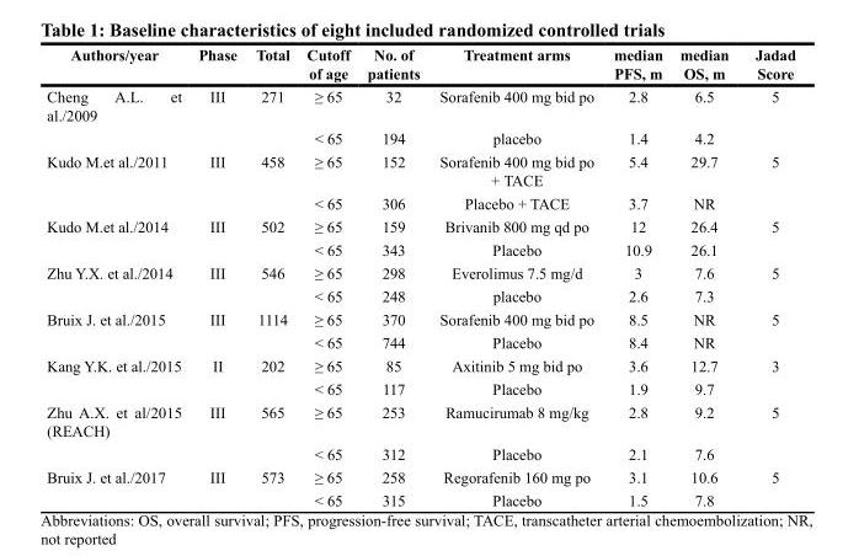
<table><thead><tr><td>Authors/year</td><td>Phase</td><td>Total</td><td>Cutoff of age</td><td>No. of patients</td><td>Treatment arms</td><td>median PFS, m</td><td>median OS, m</td><td>Jadad Score</td></tr></thead><tbody><tr><td rowspan="2">Cheng A.L. et al./2009</td><td>III</td><td>271</td><td>≥ 65</td><td>32</td><td>Sorafenib 400 mg bid po</td><td>2.8</td><td>6.5</td><td>5</td></tr><tr><td></td><td></td><td>&lt; 65</td><td>194</td><td>placebo</td><td>1.4</td><td>4.2</td><td></td></tr><tr><td rowspan="2">Kudo M.et al./2011</td><td>III</td><td>458</td><td>≥ 65</td><td>152</td><td>Sorafenib 400 mg bid po + TACE</td><td>5.4</td><td>29.7</td><td>5</td></tr><tr><td></td><td></td><td>&lt; 65</td><td>306</td><td>Placebo + TACE</td><td>3.7</td><td>NR</td><td></td></tr><tr><td rowspan="2">Kudo M.et al./2014</td><td>III</td><td>502</td><td>≥ 65</td><td>159</td><td>Brivanib 800 mg qd po</td><td>12</td><td>26.4</td><td>5</td></tr><tr><td></td><td></td><td>&lt; 65</td><td>343</td><td>Placebo</td><td>10.9</td><td>26.1</td><td></td></tr><tr><td rowspan="2">Zhu Y.X. et al./2014</td><td>III</td><td>546</td><td>≥ 65</td><td>298</td><td>Everolimus 7.5 mg/d</td><td>3</td><td>7.6</td><td>5</td></tr><tr><td></td><td></td><td>&lt; 65</td><td>248</td><td>placebo</td><td>2.6</td><td>7.3</td><td></td></tr><tr><td rowspan="2">Bruix J. et al./2015</td><td>III</td><td>1114</td><td>≥ 65</td><td>370</td><td>Sorafenib 400 mg bid po</td><td>8.5</td><td>NR</td><td>5</td></tr><tr><td></td><td></td><td>&lt; 65</td><td>744</td><td>Placebo</td><td>8.4</td><td>NR</td><td></td></tr><tr><td rowspan="2">Kang Y.K. et al./2015</td><td>II</td><td>202</td><td>≥ 65</td><td>85</td><td>Axitinib 5 mg bid po</td><td>3.6</td><td>12.7</td><td>3</td></tr><tr><td></td><td></td><td>&lt; 65</td><td>117</td><td>Placebo</td><td>1.9</td><td>9.7</td><td></td></tr><tr><td rowspan="2">Zhu A.X. et al/2015 (REACH)</td><td>III</td><td>565</td><td>≥ 65</td><td>253</td><td>Ramucirumab 8 mg/kg</td><td>2.8</td><td>9.2</td><td>5</td></tr><tr><td></td><td></td><td>&lt; 65</td><td>312</td><td>Placebo</td><td>2.1</td><td>7.6</td><td></td></tr><tr><td rowspan="2">Bruix J. et al./2017</td><td>III</td><td>573</td><td>≥ 65</td><td>258</td><td>Regorafenib 160 mg po</td><td>3.1</td><td>10.6</td><td>5</td></tr><tr><td></td><td></td><td>&lt; 65</td><td>315</td><td>Placebo</td><td>1.5</td><td>7.8</td><td></td></tr></tbody></table>